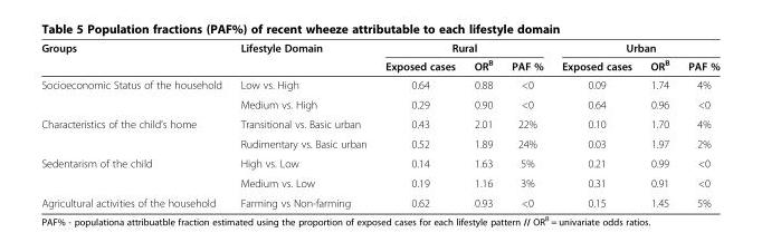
<table><thead><tr><td rowspan="2">Groups</td><td rowspan="2">Lifestyle Domain</td><td colspan="3">Rural</td><td colspan="3">Urban</td></tr><tr><td>Exposed cases</td><td>OR<sup>B</sup></td><td>PAF %</td><td>Exposed cases</td><td>OR<sup>B</sup></td><td>PAF %</td></tr></thead><tbody><tr><td rowspan="2">Socioeconomic Status of the household</td><td>Low vs. High</td><td>0.64</td><td>0.88</td><td>&lt;0</td><td>0.09</td><td>1.74</td><td>4%</td></tr><tr><td>Medium vs. High</td><td>0.29</td><td>0.90</td><td>&lt;0</td><td>0.64</td><td>0.96</td><td>&lt;0</td></tr><tr><td rowspan="2">Characteristics of the child’s home</td><td>Transitional vs. Basic urban</td><td>0.43</td><td>2.01</td><td>22%</td><td>0.10</td><td>1.70</td><td>4%</td></tr><tr><td>Rudimentary vs. Basic urban</td><td>0.52</td><td>1.89</td><td>24%</td><td>0.03</td><td>1.97</td><td>2%</td></tr><tr><td rowspan="2">Sedentarism of the child</td><td>High vs. Low</td><td>0.14</td><td>1.63</td><td>5%</td><td>0.21</td><td>0.99</td><td>&lt;0</td></tr><tr><td>Medium vs. Low</td><td>0.19</td><td>1.16</td><td>3%</td><td>0.31</td><td>0.91</td><td>&lt;0</td></tr><tr><td>Agricultural activities of the household</td><td>Farming vs Non-farming</td><td>0.62</td><td>0.93</td><td>&lt;0</td><td>0.15</td><td>1.45</td><td>5%</td></tr></tbody></table>